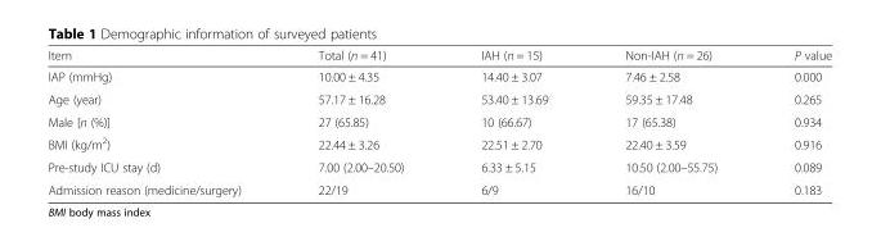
<table><thead><tr><td>Item</td><td>Total (n = 41)</td><td>IAH (n = 15)</td><td>Non-IAH (n = 26)</td><td>P value</td></tr></thead><tbody><tr><td>IAP (mmHg)</td><td>10.00 ± 4.35</td><td>14.40 ± 3.07</td><td>7.46 ± 2.58</td><td>0.000</td></tr><tr><td>Age (year)</td><td>57.17 ± 16.28</td><td>53.40 ± 13.69</td><td>59.35 ± 17.48</td><td>0.265</td></tr><tr><td>Male [n (%)]</td><td>27 (65.85)</td><td>10 (66.67)</td><td>17 (65.38)</td><td>0.934</td></tr><tr><td>BMI (kg/m<sup>2</sup>)</td><td>22.44 ± 3.26</td><td>22.51 ± 2.70</td><td>22.40 ± 3.59</td><td>0.916</td></tr><tr><td>Pre-study ICU stay (d)</td><td>7.00 (2.00–20.50)</td><td>6.33 ± 5.15</td><td>10.50 (2.00–55.75)</td><td>0.089</td></tr><tr><td>Admission reason (medicine/surgery)</td><td>22/19</td><td>6/9</td><td>16/10</td><td>0.183</td></tr></tbody></table>